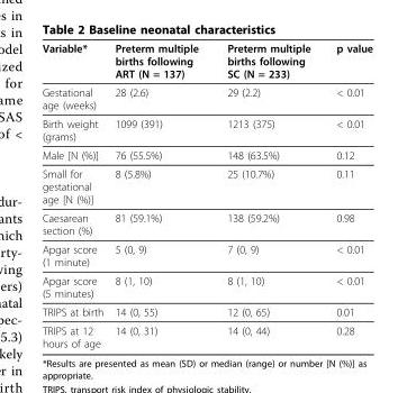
<table><thead><tr><td>Variable*</td><td>Preterm multiple births following ART (N = 137)</td><td>Preterm multiple births following SC (N = 233)</td><td>p value</td></tr></thead><tbody><tr><td>Gestational age (weeks)</td><td>28 (2.6)</td><td>29 (2.2)</td><td>&lt; 0.01</td></tr><tr><td>Birth weight (grams)</td><td>1099 (391)</td><td>1213 (375)</td><td>&lt; 0.01</td></tr><tr><td>Male [N (%)]</td><td>76 (55.5%)</td><td>148 (63.5%)</td><td>0.12</td></tr><tr><td>Small for gestational age [N (%)]</td><td>8 (5.8%)</td><td>25 (10.7%)</td><td>0.11</td></tr><tr><td>Caesarean section (%)</td><td>81 (59.1%)</td><td>138 (59.2%)</td><td>0.98</td></tr><tr><td>Apgar score (1 minute)</td><td>5 (0, 9)</td><td>7 (0, 9)</td><td>&lt; 0.01</td></tr><tr><td>Apgar score (5 minutes)</td><td>8 (1, 10)</td><td>8 (1, 10)</td><td>&lt; 0.01</td></tr><tr><td>TRIPS at birth</td><td>14 (0, 55)</td><td>12 (0, 65)</td><td>0.01</td></tr><tr><td>TRIPS at 12 hours of age</td><td>14 (0, 31)</td><td>14 (0, 44)</td><td>0.28</td></tr></tbody></table>